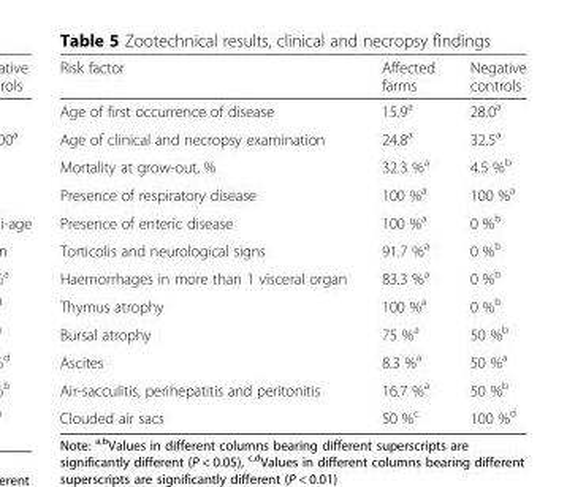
<table><thead><tr><td>Risk factor</td><td>Affected farms</td><td>Negative controls</td></tr></thead><tbody><tr><td>Age of first occurrence of disease</td><td>15.9<sup>a</sup></td><td>28.0<sup>a</sup></td></tr><tr><td>Age of clinical and necropsy examination</td><td>24.8<sup>a</sup></td><td>32.5<sup>a</sup></td></tr><tr><td>Mortality at grow-out, %</td><td>32.3 %<sup>a</sup></td><td>4.5 %<sup>b</sup></td></tr><tr><td>Presence of respiratory disease</td><td>100 %<sup>a</sup></td><td>100 %<sup>a</sup></td></tr><tr><td>Presence of enteric disease</td><td>100 %<sup>a</sup></td><td>0 %<sup>b</sup></td></tr><tr><td>Torticolis and neurological signs</td><td>91.7 %<sup>a</sup></td><td>0 %<sup>b</sup></td></tr><tr><td>Haemorrhages in more than 1 visceral organ</td><td>83.3 %<sup>a</sup></td><td>0 %<sup>b</sup></td></tr><tr><td>Thymus atrophy</td><td>100 %<sup>a</sup></td><td>0 %<sup>b</sup></td></tr><tr><td>Bursal atrophy</td><td>75 %<sup>a</sup></td><td>50 %<sup>b</sup></td></tr><tr><td>Ascites</td><td>8.3 %<sup>a</sup></td><td>50 %<sup>a</sup></td></tr><tr><td>Air-sacculitis, perihepatitis and peritonitis</td><td>16.7 %<sup>a</sup></td><td>50 %<sup>b</sup></td></tr><tr><td>Clouded air sacs</td><td>50 %<sup>c</sup></td><td>100 %<sup>d</sup></td></tr></tbody></table>